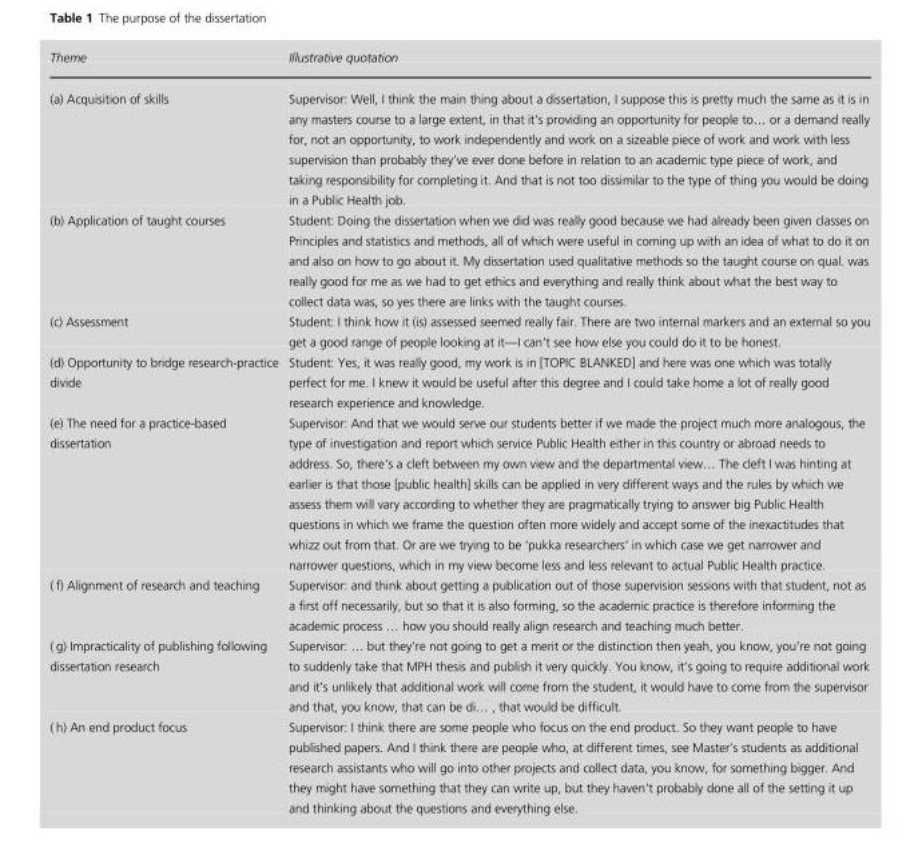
<table><thead><tr><td>Theme</td><td>Illustrative quotation</td></tr></thead><tbody><tr><td>(a) Acquisition of skills</td><td>Supervisor: Well, I think the main thing about a dissertation, I suppose this is pretty much the same as it is in any masters course to a large extent, in that it’s providing an opportunity for people to… or a demand really for, not an opportunity, to work independently and work on a sizeable piece of work and work with less supervision than probably they’ve ever done before in relation to an academic type piece of work, and taking responsibility for completing it. And that is not too dissimilar to the type of thing you would be doing in a Public Health job.</td></tr><tr><td>(b) Application of taught courses</td><td>Student: Doing the dissertation when we did was really good because we had already been given classes on Principles and statistics and methods, all of which were useful in coming up with an idea of what to do it on and also on how to go about it. My dissertation used qualitative methods so the taught course on qual. was really good for me as we had to get ethics and everything and really think about what the best way to collect data was, so yes there are links with the taught courses.</td></tr><tr><td>(c) Assessment</td><td>Student: I think how it (is) assessed seemed really fair. There are two internal markers and an external so you get a good range of people looking at it—I can’t see how else you could do it to be honest.</td></tr><tr><td>(d) Opportunity to bridge research-practice divide</td><td>Student: Yes, it was really good, my work is in [TOPIC BLANKED] and here was one which was totally perfect for me. I knew it would be useful after this degree and I could take home a lot of really good research experience and knowledge.</td></tr><tr><td>(e) The need for a practice-based dissertation</td><td>Supervisor: And that we would serve our students better if we made the project much more analogous, the type of investigation and report which service Public Health either in this country or abroad needs to address. So, there’s a cleft between my own view and the departmental view… The cleft I was hinting at earlier is that those [public health] skills can be applied in very different ways and the rules by which we assess them will vary according to whether they are pragmatically trying to answer big Public Health questions in which we frame the question often more widely and accept some of the inexactitudes that whizz out from that. Or are we trying to be ‘pukka researchers’ in which case we get narrower and narrower questions, which in my view become less and less relevant to actual Public Health practice.</td></tr><tr><td>( f) Alignment of research and teaching</td><td>Supervisor: and think about getting a publication out of those supervision sessions with that student, not as a first off necessarily, but so that it is also forming, so the academic practice is therefore informing the academic process … how you should really align research and teaching much better.</td></tr><tr><td>( g) Impracticality of publishing following dissertation research</td><td>Supervisor: … but they’re not going to get a merit or the distinction then yeah, you know, you’re not going to suddenly take that MPH thesis and publish it very quickly. You know, it’s going to require additional work and it’s unlikely that additional work will come from the student, it would have to come from the supervisor and that, you know, that can be di… , that would be difficult.</td></tr><tr><td>( h) An end product focus</td><td>Supervisor: I think there are some people who focus on the end product. So they want people to have published papers. And I think there are people who, at different times, see Master’s students as additional research assistants who will go into other projects and collect data, you know, for something bigger. And they might have something that they can write up, but they haven’t probably done all of the setting it up and thinking about the questions and everything else.</td></tr></tbody></table>